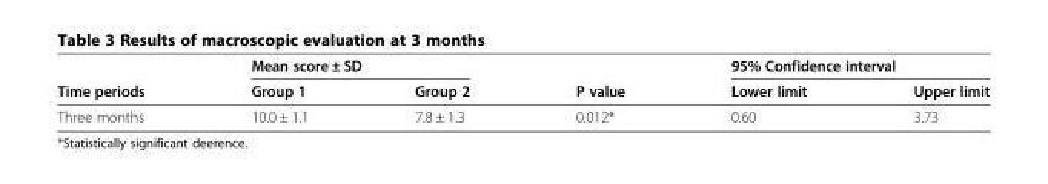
<table><thead><tr><td rowspan="2">Time periods</td><td colspan="2">Mean score ± SD</td><td rowspan="2">P value</td><td colspan="2">95% Confidence interval</td></tr><tr><td>Group 1</td><td>Group 2</td><td>Lower limit</td><td>Upper limit</td></tr></thead><tbody><tr><td>Three months</td><td>10.0 ± 1.1</td><td>7.8 ± 1.3</td><td>0.012*</td><td>0.60</td><td>3.73</td></tr></tbody></table>